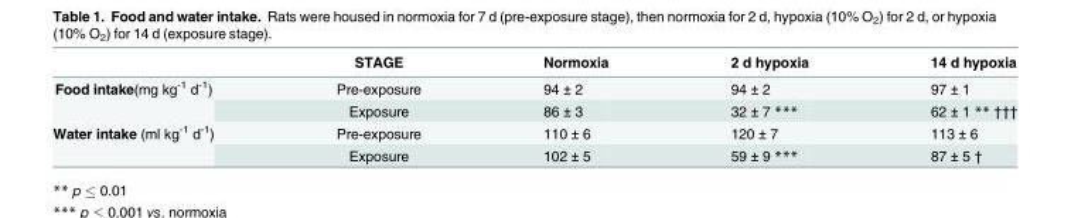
<table><thead><tr><td></td><td>STAGE</td><td>Normoxia</td><td>2 d hypoxia</td><td>14 d hypoxia</td></tr></thead><tbody><tr><td rowspan="2">Food intake(mg kg<sup>-1</sup> d<sup>-1</sup>)</td><td>Pre-exposure</td><td>94 ± 2</td><td>94 ± 2</td><td>97 ± 1</td></tr><tr><td>Exposure</td><td>86 ± 3</td><td>32 ± 7 ***</td><td>62 ± 1 ** †††</td></tr><tr><td rowspan="2">Water intake (ml kg<sup>-1</sup> d<sup>-1</sup>)</td><td>Pre-exposure</td><td>110 ± 6</td><td>120 ± 7</td><td>113 ± 6</td></tr><tr><td>Exposure</td><td>102 ± 5</td><td>59 ± 9 ***</td><td>87 ± 5 †</td></tr></tbody></table>